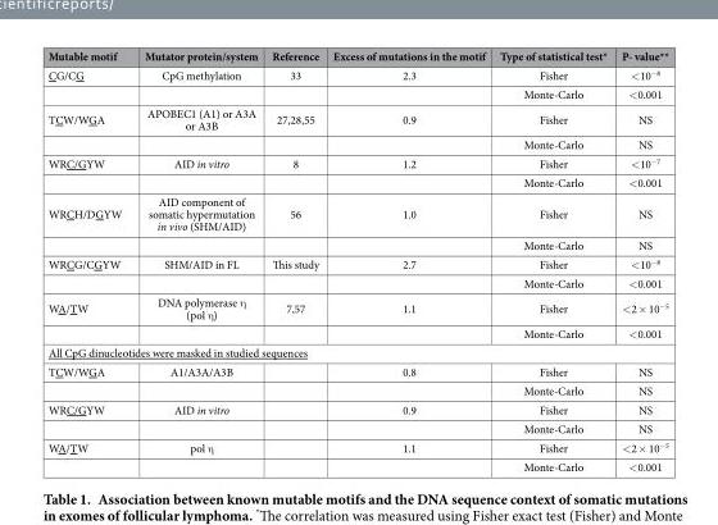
<table><thead><tr><td>Mutable motif</td><td>Mutator protein/system</td><td>Reference</td><td>Excess of mutations in the motif</td><td>Type of statistical test*</td><td>P- value**</td></tr></thead><tbody><tr><td rowspan="2">CG/CG</td><td>CpG methylation</td><td>33</td><td>2.3</td><td>Fisher</td><td>&lt; 10<sup>−8</sup></td></tr><tr><td></td><td></td><td></td><td>Monte-Carlo</td><td>&lt; 0.001</td></tr><tr><td rowspan="2">TCW/WGA</td><td>APOBEC1 (A1) or A3A or A3B</td><td>27,28,55</td><td>0.9</td><td>Fisher</td><td>NS</td></tr><tr><td></td><td></td><td></td><td>Monte-Carlo</td><td>NS</td></tr><tr><td rowspan="2">WRC/GYW</td><td>AID in vitro</td><td>8</td><td>1.2</td><td>Fisher</td><td>&lt; 10<sup>−7</sup></td></tr><tr><td></td><td></td><td></td><td>Monte-Carlo</td><td>&lt; 0.001</td></tr><tr><td rowspan="2">WRCH/DGYW</td><td>AID component of somatic hypermutation in vivo (SHM/AID)</td><td>56</td><td>1.0</td><td>Fisher</td><td>NS</td></tr><tr><td></td><td></td><td></td><td>Monte-Carlo</td><td>NS</td></tr><tr><td rowspan="2">WRCG/CGYW</td><td>SHM/AID in FL</td><td>This study</td><td>2.7</td><td>Fisher</td><td>&lt; 10<sup>−8</sup></td></tr><tr><td></td><td></td><td></td><td>Monte-Carlo</td><td>&lt; 0.001</td></tr><tr><td rowspan="2">WA/TW</td><td>DNA polymerase η (pol η )</td><td>7,57</td><td>1.1</td><td>Fisher</td><td>&lt; 2 × 10<sup>−5</sup></td></tr><tr><td></td><td></td><td></td><td>Monte-Carlo</td><td>&lt; 0.001</td></tr><tr><td colspan="6">All CpG dinucleotides were masked in studied sequences</td></tr><tr><td rowspan="2">TCW/WGA</td><td>A1/A3A/A3B</td><td></td><td>0.8</td><td>Fisher</td><td>NS</td></tr><tr><td></td><td></td><td></td><td>Monte-Carlo</td><td>NS</td></tr><tr><td rowspan="2">WRC/GYW</td><td>AID in vitro</td><td></td><td>0.9</td><td>Fisher</td><td>NS</td></tr><tr><td></td><td></td><td></td><td>Monte-Carlo</td><td>NS</td></tr><tr><td rowspan="2">WA/TW</td><td>pol η</td><td></td><td>1.1</td><td>Fisher</td><td>&lt; 2 × 10<sup>−5</sup></td></tr><tr><td></td><td></td><td></td><td>Monte-Carlo</td><td>&lt; 0.001</td></tr></tbody></table>